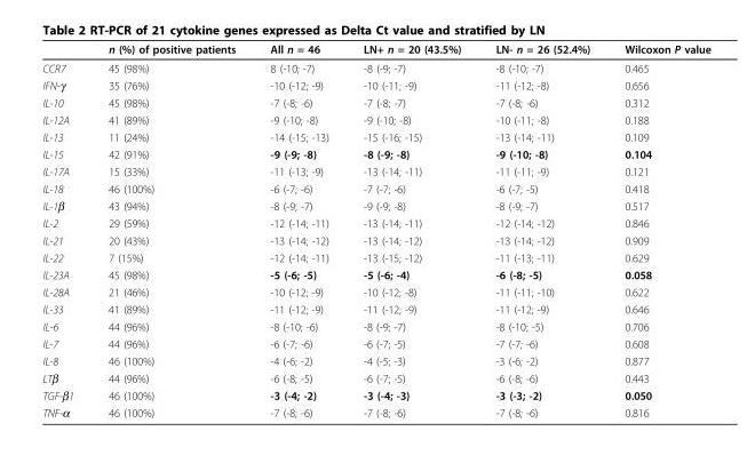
<table><thead><tr><td></td><td>n (%) of positive patients</td><td>All n = 46</td><td>LN+ n = 20 (43.5%)</td><td>LN- n = 26 (52.4%)</td><td>Wilcoxon P value</td></tr></thead><tbody><tr><td>CCR7</td><td>45 (98%)</td><td>8 (-10; -7)</td><td>-8 (-9; -7)</td><td>-8 (-10; -7)</td><td>0.465</td></tr><tr><td>IFN-γ</td><td>35 (76%)</td><td>-10 (-12; -9)</td><td>-10 (-11; -9)</td><td>-11 (-12; -8)</td><td>0.656</td></tr><tr><td>IL-10</td><td>45 (98%)</td><td>-7 (-8; -6)</td><td>-7 (-8; -7)</td><td>-7 (-8; -6)</td><td>0.312</td></tr><tr><td>IL-12A</td><td>41 (89%)</td><td>-9 (-10; -8)</td><td>-9 (-10; -8)</td><td>-10 (-11; -8)</td><td>0.188</td></tr><tr><td>IL-13</td><td>11 (24%)</td><td>-14 (-15; -13)</td><td>-15 (-16; -15)</td><td>-13 (-14; -11)</td><td>0.109</td></tr><tr><td>IL-15</td><td>42 (91%)</td><td>-9 (-9; -8)</td><td>-8 (-9; -8)</td><td>-9 (-10; -8)</td><td>0.104</td></tr><tr><td>IL-17A</td><td>15 (33%)</td><td>-11 (-13; -9)</td><td>-13 (-14; -11)</td><td>-11 (-11; -9)</td><td>0.121</td></tr><tr><td>IL-18</td><td>46 (100%)</td><td>-6 (-7; -6)</td><td>-7 (-7; -6)</td><td>-6 (-7; -5)</td><td>0.418</td></tr><tr><td>IL-1β</td><td>43 (94%)</td><td>-8 (-9; -7)</td><td>-9 (-9; -8)</td><td>-8 (-9; -7)</td><td>0.517</td></tr><tr><td>IL-2</td><td>29 (59%)</td><td>-12 (-14; -11)</td><td>-13 (-14; -11)</td><td>-12 (-14; -12)</td><td>0.846</td></tr><tr><td>IL-21</td><td>20 (43%)</td><td>-13 (-14; -12)</td><td>-13 (-14; -12)</td><td>-13 (-14; -12)</td><td>0.909</td></tr><tr><td>IL-22</td><td>7 (15%)</td><td>-12 (-14; -11)</td><td>-13 (-15; -12)</td><td>-11 (-13; -11)</td><td>0.629</td></tr><tr><td>IL-23A</td><td>45 (98%)</td><td>-5 (-6; -5)</td><td>-5 (-6; -4)</td><td>-6 (-8; -5)</td><td>0.058</td></tr><tr><td>IL-28A</td><td>21 (46%)</td><td>-10 (-12; -9)</td><td>-10 (-12; -8)</td><td>-11 (-11; -10)</td><td>0.622</td></tr><tr><td>IL-33</td><td>41 (89%)</td><td>-11 (-12; -9)</td><td>-11 (-12; -9)</td><td>-11 (-12; -9)</td><td>0.646</td></tr><tr><td>IL-6</td><td>44 (96%)</td><td>-8 (-10; -6)</td><td>-8 (-9; -7)</td><td>-8 (-10; -5)</td><td>0.706</td></tr><tr><td>IL-7</td><td>44 (96%)</td><td>-6 (-7; -6)</td><td>-6 (-7; -5)</td><td>-7 (-7; -6)</td><td>0.608</td></tr><tr><td>IL-8</td><td>46 (100%)</td><td>-4 (-6; -2)</td><td>-4 (-5; -3)</td><td>-3 (-6; -2)</td><td>0.877</td></tr><tr><td>LTβ</td><td>44 (96%)</td><td>-6 (-8; -5)</td><td>-6 (-7; -5)</td><td>-6 (-8; -6)</td><td>0.443</td></tr><tr><td>TGF-β1</td><td>46 (100%)</td><td>-3 (-4; -2)</td><td>-3 (-4; -3)</td><td>-3 (-3; -2)</td><td>0.050</td></tr><tr><td>TNF-α</td><td>46 (100%)</td><td>-7 (-8; -6)</td><td>-7 (-8; -6)</td><td>-7 (-8; -6)</td><td>0.816</td></tr></tbody></table>